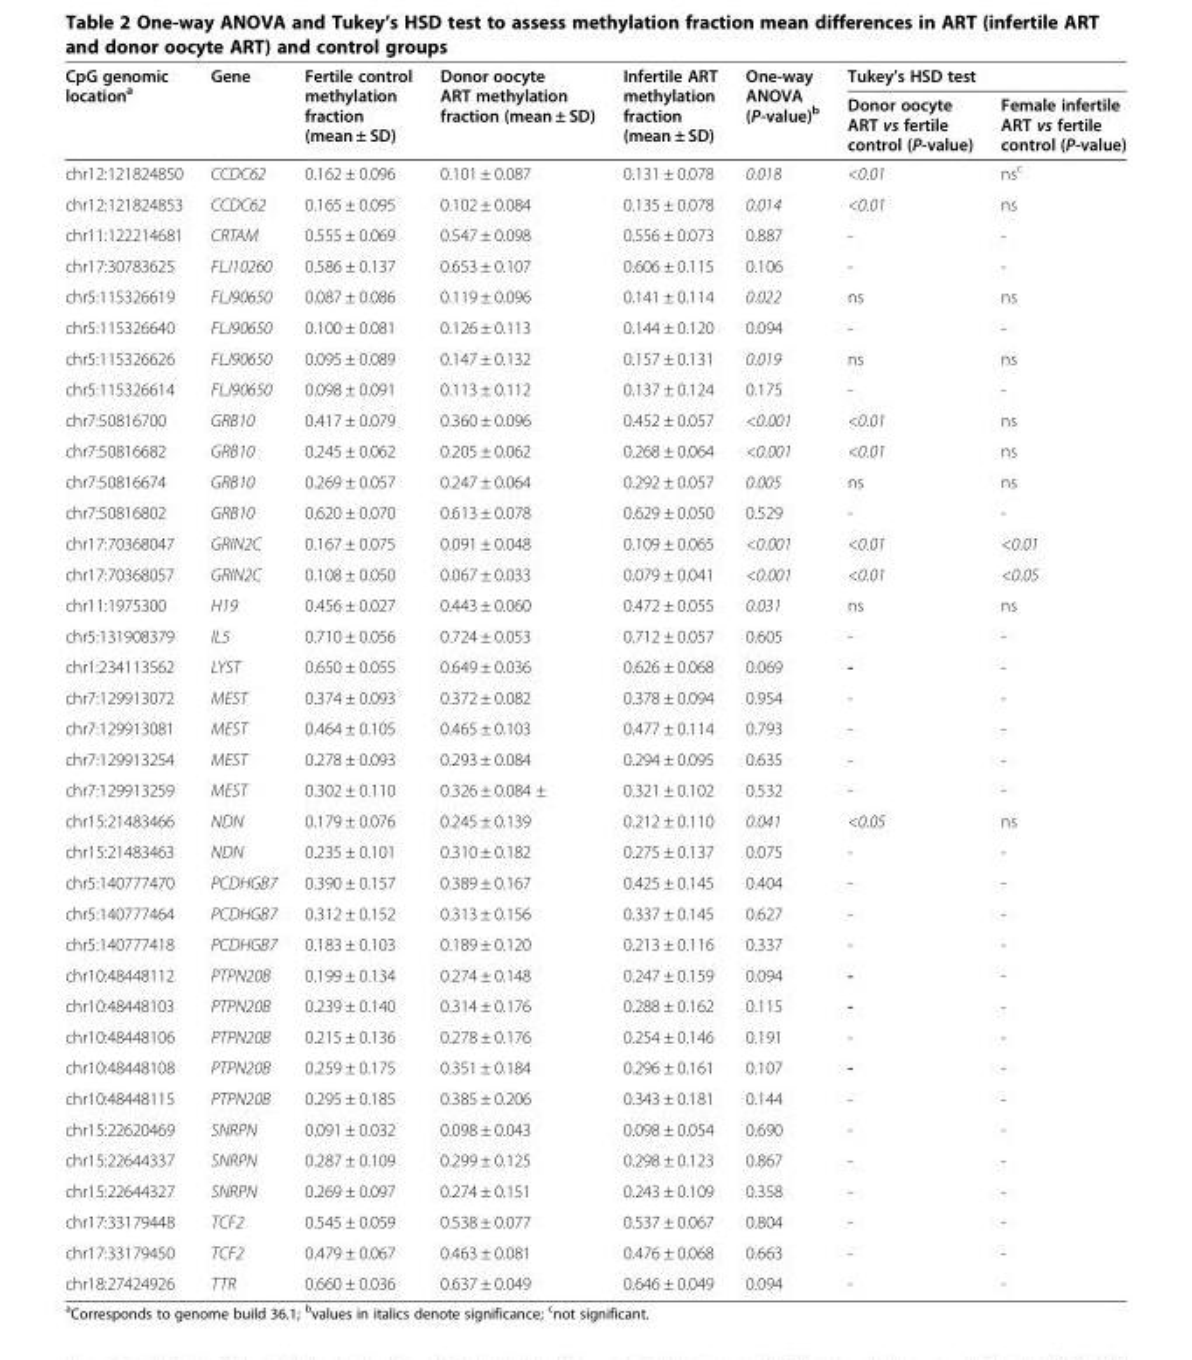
<table><thead><tr><td rowspan="2">CpG genomic location<sup>a</sup></td><td rowspan="2">Gene</td><td rowspan="2">Fertile control methylation fraction (mean ± SD)</td><td rowspan="2">Donor oocyte ART methylation fraction (mean ± SD)</td><td rowspan="2">Infertile ART methylation fraction (mean ± SD)</td><td rowspan="2">One-way ANOVA (P-value)<sup>b</sup></td><td colspan="2">Tukey’s HSD test</td></tr><tr><td>Donor oocyte ART vs fertile control (P-value)</td><td>Female infertile ART vs fertile control (P-value)</td></tr></thead><tbody><tr><td>chr12:121824850</td><td>CCDC62</td><td>0.162 ± 0.096</td><td>0.101 ± 0.087</td><td>0.131 ± 0.078</td><td>0.018</td><td>&lt;0.01</td><td>ns<sup>c</sup></td></tr><tr><td>chr12:121824853</td><td>CCDC62</td><td>0.165 ± 0.095</td><td>0.102 ± 0.084</td><td>0.135 ± 0.078</td><td>0.014</td><td>&lt;0.01</td><td>ns</td></tr><tr><td>chr11:122214681</td><td>CRTAM</td><td>0.555 ± 0.069</td><td>0.547 ± 0.098</td><td>0.556 ± 0.073</td><td>0.887</td><td>-</td><td>-</td></tr><tr><td>chr17:30783625</td><td>FLJ10260</td><td>0.586 ± 0.137</td><td>0.653 ± 0.107</td><td>0.606 ± 0.115</td><td>0.106</td><td>-</td><td>-</td></tr><tr><td>chr5:115326619</td><td>FLJ90650</td><td>0.087 ± 0.086</td><td>0.119 ± 0.096</td><td>0.141 ± 0.114</td><td>0.022</td><td>ns</td><td>ns</td></tr><tr><td>chr5:115326640</td><td>FLJ90650</td><td>0.100 ± 0.081</td><td>0.126 ± 0.113</td><td>0.144 ± 0.120</td><td>0.094</td><td>-</td><td>-</td></tr><tr><td>chr5:115326626</td><td>FLJ90650</td><td>0.095 ± 0.089</td><td>0.147 ± 0.132</td><td>0.157 ± 0.131</td><td>0.019</td><td>ns</td><td>ns</td></tr><tr><td>chr5:115326614</td><td>FLJ90650</td><td>0.098 ± 0.091</td><td>0.113 ± 0.112</td><td>0.137 ± 0.124</td><td>0.175</td><td>-</td><td>-</td></tr><tr><td>chr7:50816700</td><td>GRB10</td><td>0.417 ± 0.079</td><td>0.360 ± 0.096</td><td>0.452 ± 0.057</td><td>&lt;0.001</td><td>&lt;0.01</td><td>ns</td></tr><tr><td>chr7:50816682</td><td>GRB10</td><td>0.245 ± 0.062</td><td>0.205 ± 0.062</td><td>0.268 ± 0.064</td><td>&lt;0.001</td><td>&lt;0.01</td><td>ns</td></tr><tr><td>chr7:50816674</td><td>GRB10</td><td>0.269 ± 0.057</td><td>0.247 ± 0.064</td><td>0.292 ± 0.057</td><td>0.005</td><td>ns</td><td>ns</td></tr><tr><td>chr7:50816802</td><td>GRB10</td><td>0.620 ± 0.070</td><td>0.613 ± 0.078</td><td>0.629 ± 0.050</td><td>0.529</td><td>-</td><td>-</td></tr><tr><td>chr17:70368047</td><td>GRIN2C</td><td>0.167 ± 0.075</td><td>0.091 ± 0.048</td><td>0.109 ± 0.065</td><td>&lt;0.001</td><td>&lt;0.01</td><td>&lt;0.01</td></tr><tr><td>chr17:70368057</td><td>GRIN2C</td><td>0.108 ± 0.050</td><td>0.067 ± 0.033</td><td>0.079 ± 0.041</td><td>&lt;0.001</td><td>&lt;0.01</td><td>&lt;0.05</td></tr><tr><td>chr11:1975300</td><td>H19</td><td>0.456 ± 0.027</td><td>0.443 ± 0.060</td><td>0.472 ± 0.055</td><td>0.031</td><td>ns</td><td>ns</td></tr><tr><td>chr5:131908379</td><td>IL5</td><td>0.710 ± 0.056</td><td>0.724 ± 0.053</td><td>0.712 ± 0.057</td><td>0.605</td><td>-</td><td>-</td></tr><tr><td>chr1:234113562</td><td>LYST</td><td>0.650 ± 0.055</td><td>0.649 ± 0.036</td><td>0.626 ± 0.068</td><td>0.069</td><td>-</td><td>-</td></tr><tr><td>chr7:129913072</td><td>MEST</td><td>0.374 ± 0.093</td><td>0.372 ± 0.082</td><td>0.378 ± 0.094</td><td>0.954</td><td>-</td><td>-</td></tr><tr><td>chr7:129913081</td><td>MEST</td><td>0.464 ± 0.105</td><td>0.465 ± 0.103</td><td>0.477 ± 0.114</td><td>0.793</td><td>-</td><td>-</td></tr><tr><td>chr7:129913254</td><td>MEST</td><td>0.278 ± 0.093</td><td>0.293 ± 0.084</td><td>0.294 ± 0.095</td><td>0.635</td><td>-</td><td>-</td></tr><tr><td>chr7:129913259</td><td>MEST</td><td>0.302 ± 0.110</td><td>0.326 ± 0.084 ±</td><td>0.321 ± 0.102</td><td>0.532</td><td>-</td><td>-</td></tr><tr><td>chr15:21483466</td><td>NDN</td><td>0.179 ± 0.076</td><td>0.245 ± 0.139</td><td>0.212 ± 0.110</td><td>0.041</td><td>&lt;0.05</td><td>ns</td></tr><tr><td>chr15:21483463</td><td>NDN</td><td>0.235 ± 0.101</td><td>0.310 ± 0.182</td><td>0.275 ± 0.137</td><td>0.075</td><td>-</td><td>-</td></tr><tr><td>chr5:140777470</td><td>PCDHGB7</td><td>0.390 ± 0.157</td><td>0.389 ± 0.167</td><td>0.425 ± 0.145</td><td>0.404</td><td>-</td><td>-</td></tr><tr><td>chr5:140777464</td><td>PCDHGB7</td><td>0.312 ± 0.152</td><td>0.313 ± 0.156</td><td>0.337 ± 0.145</td><td>0.627</td><td>-</td><td>-</td></tr><tr><td>chr5:140777418</td><td>PCDHGB7</td><td>0.183 ± 0.103</td><td>0.189 ± 0.120</td><td>0.213 ± 0.116</td><td>0.337</td><td>-</td><td>-</td></tr><tr><td>chr10:48448112</td><td>PTPN20B</td><td>0.199 ± 0.134</td><td>0.274 ± 0.148</td><td>0.247 ± 0.159</td><td>0.094</td><td>-</td><td>-</td></tr><tr><td>chr10:48448103</td><td>PTPN20B</td><td>0.239 ± 0.140</td><td>0.314 ± 0.176</td><td>0.288 ± 0.162</td><td>0.115</td><td>-</td><td>-</td></tr><tr><td>chr10:48448106</td><td>PTPN20B</td><td>0.215 ± 0.136</td><td>0.278 ± 0.176</td><td>0.254 ± 0.146</td><td>0.191</td><td>-</td><td>-</td></tr><tr><td>chr10:48448108</td><td>PTPN20B</td><td>0.259 ± 0.175</td><td>0.351 ± 0.184</td><td>0.296 ± 0.161</td><td>0.107</td><td>-</td><td>-</td></tr><tr><td>chr10:48448115</td><td>PTPN20B</td><td>0.295 ± 0.185</td><td>0.385 ± 0.206</td><td>0.343 ± 0.181</td><td>0.144</td><td>-</td><td>-</td></tr><tr><td>chr15:22620469</td><td>SNRPN</td><td>0.091 ± 0.032</td><td>0.098 ± 0.043</td><td>0.098 ± 0.054</td><td>0.690</td><td>-</td><td>-</td></tr><tr><td>chr15:22644337</td><td>SNRPN</td><td>0.287 ± 0.109</td><td>0.299 ± 0.125</td><td>0.298 ± 0.123</td><td>0.867</td><td>-</td><td>-</td></tr><tr><td>chr15:22644327</td><td>SNRPN</td><td>0.269 ± 0.097</td><td>0.274 ± 0.151</td><td>0.243 ± 0.109</td><td>0.358</td><td>-</td><td>-</td></tr><tr><td>chr17:33179448</td><td>TCF2</td><td>0.545 ± 0.059</td><td>0.538 ± 0.077</td><td>0.537 ± 0.067</td><td>0.804</td><td>-</td><td>-</td></tr><tr><td>chr17:33179450</td><td>TCF2</td><td>0.479 ± 0.067</td><td>0.463 ± 0.081</td><td>0.476 ± 0.068</td><td>0.663</td><td>-</td><td>-</td></tr><tr><td>chr18:27424926</td><td>TTR</td><td>0.660 ± 0.036</td><td>0.637 ± 0.049</td><td>0.646 ± 0.049</td><td>0.094</td><td>-</td><td>-</td></tr></tbody></table>